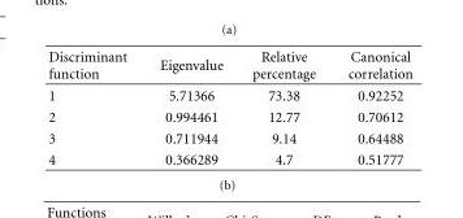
<table><thead><tr><td>Discriminant function</td><td>Eigenvalue</td><td>Relative percentage</td><td>Canonical correlation</td></tr></thead><tbody><tr><td>1</td><td>5.71366</td><td>73.38</td><td>0.92252</td></tr><tr><td>2</td><td>0.994461</td><td>12.77</td><td>0.70612</td></tr><tr><td>3</td><td>0.711944</td><td>9.14</td><td>0.64488</td></tr><tr><td>4</td><td>0.366289</td><td>4.7</td><td>0.51777</td></tr></tbody></table>